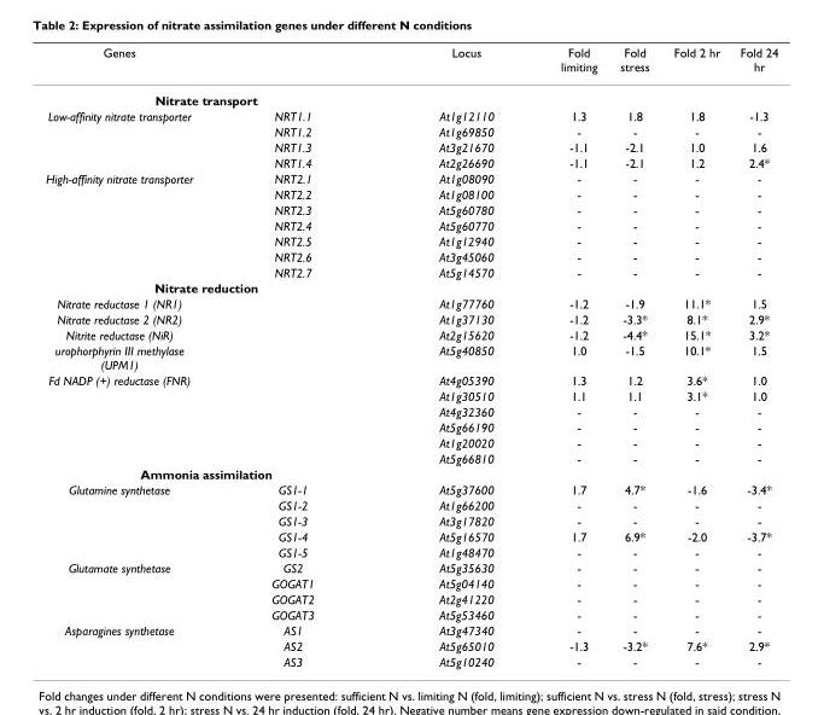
<table><thead><tr><td>Genes</td><td></td><td>Locus</td><td>Fold limiting</td><td>Fold stress</td><td>Fold 2 hr</td><td>Fold 24 hr</td></tr></thead><tbody><tr><td colspan="7">Nitrate transport</td></tr><tr><td rowspan="4">Low-affinity nitrate transporter</td><td>NRT1.1</td><td>At1g12110</td><td>1.3</td><td>1.8</td><td>1.8</td><td>-1.3</td></tr><tr><td>NRT1.2</td><td>At1g69850</td><td>-</td><td>-</td><td>-</td><td>-</td></tr><tr><td>NRT1.3</td><td>At3g21670</td><td>-1.1</td><td>-2.1</td><td>1.0</td><td>1.6</td></tr><tr><td>NRT1.4</td><td>At2g26690</td><td>-1.1</td><td>-2.1</td><td>1.2</td><td>2.4*</td></tr><tr><td rowspan="7">High-affinity nitrate transporter</td><td>NRT2.1</td><td>At1g08090</td><td>-</td><td>-</td><td>-</td><td>-</td></tr><tr><td>NRT2.2</td><td>At1g08100</td><td>-</td><td>-</td><td>-</td><td>-</td></tr><tr><td>NRT2.3</td><td>At5g60780</td><td>-</td><td>-</td><td>-</td><td>-</td></tr><tr><td>NRT2.4</td><td>At5g60770</td><td>-</td><td>-</td><td>-</td><td>-</td></tr><tr><td>NRT2.5</td><td>At1g12940</td><td>-</td><td>-</td><td>-</td><td>-</td></tr><tr><td>NRT2.6</td><td>At3g45060</td><td>-</td><td>-</td><td>-</td><td>-</td></tr><tr><td>NRT2.7</td><td>At5g14570</td><td>-</td><td>-</td><td>-</td><td>-</td></tr><tr><td colspan="7">Nitrate reduction</td></tr><tr><td>Nitrate reductase 1 (NR1)</td><td></td><td>At1g77760</td><td>-1.2</td><td>-1.9</td><td>11.1*</td><td>1.5</td></tr><tr><td>Nitrate reductase 2 (NR2)</td><td></td><td>At1g37130</td><td>-1.2</td><td>-3.3*</td><td>8.1*</td><td>2.9*</td></tr><tr><td>Nitrite reductase (NiR)</td><td></td><td>At2g15620</td><td>-1.2</td><td>-4.4*</td><td>15.1*</td><td>3.2*</td></tr><tr><td>urophorphyrin III methylase (UPM1)</td><td></td><td>At5g40850</td><td>1.0</td><td>-1.5</td><td>10.1*</td><td>1.5</td></tr><tr><td rowspan="6">Fd NADP (+) reductase (FNR)</td><td></td><td>At4g05390</td><td>1.3</td><td>1.2</td><td>3.6*</td><td>1.0</td></tr><tr><td></td><td>At1g30510</td><td>1.1</td><td>1.1</td><td>3.1*</td><td>1.0</td></tr><tr><td></td><td>At4g32360</td><td>-</td><td>-</td><td>-</td><td>-</td></tr><tr><td></td><td>At5g66190</td><td>-</td><td>-</td><td>-</td><td>-</td></tr><tr><td></td><td>At1g20020</td><td>-</td><td>-</td><td>-</td><td>-</td></tr><tr><td></td><td>At5g66810</td><td>-</td><td>-</td><td>-</td><td>-</td></tr><tr><td colspan="7">Ammonia assimilation</td></tr><tr><td rowspan="5">Glutamine synthetase</td><td>GS1-1</td><td>At5g37600</td><td>1.7</td><td>4.7*</td><td>-1.6</td><td>-3.4*</td></tr><tr><td>GS1-2</td><td>At1g66200</td><td>-</td><td>-</td><td>-</td><td>-</td></tr><tr><td>GS1-3</td><td>At3g17820</td><td>-</td><td>-</td><td>-</td><td>-</td></tr><tr><td>GS1-4</td><td>At5g16570</td><td>1.7</td><td>6.9*</td><td>-2.0</td><td>-3.7*</td></tr><tr><td>GS1-5</td><td>At1g48470</td><td>-</td><td>-</td><td>-</td><td>-</td></tr><tr><td rowspan="4">Glutamate synthetase</td><td>GS2</td><td>At5g35630</td><td>-</td><td>-</td><td>-</td><td>-</td></tr><tr><td>GOGAT1</td><td>At5g04140</td><td>-</td><td>-</td><td>-</td><td>-</td></tr><tr><td>GOGAT2</td><td>At2g41220</td><td>-</td><td>-</td><td>-</td><td>-</td></tr><tr><td>GOGAT3</td><td>At5g53460</td><td>-</td><td>-</td><td>-</td><td>-</td></tr><tr><td rowspan="3">Asparagines synthetase</td><td>AS1</td><td>At3g47340</td><td>-</td><td>-</td><td>-</td><td>-</td></tr><tr><td>AS2</td><td>At5g65010</td><td>-1.3</td><td>-3.2*</td><td>7.6*</td><td>2.9*</td></tr><tr><td>AS3</td><td>At5g10240</td><td>-</td><td>-</td><td>-</td><td>-</td></tr></tbody></table>